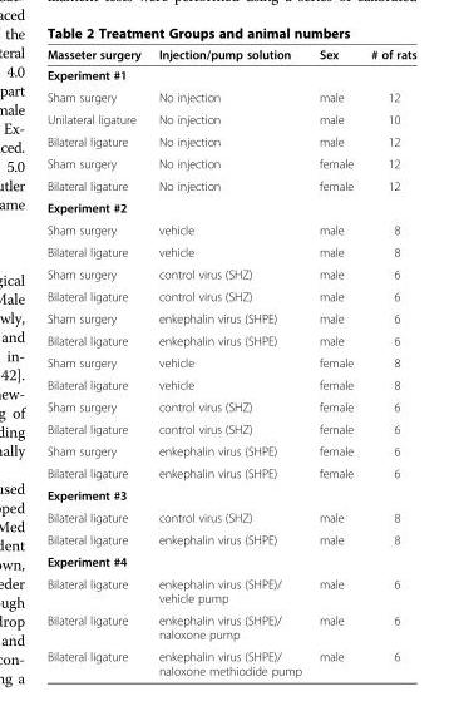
<table><thead><tr><td>Masseter surgery</td><td>Injection/pump solution</td><td>Sex</td><td># of rats</td></tr></thead><tbody><tr><td colspan="4">Experiment #1</td></tr><tr><td>Sham surgery</td><td>No injection</td><td>male</td><td>12</td></tr><tr><td>Unilateral ligature</td><td>No injection</td><td>male</td><td>10</td></tr><tr><td>Bilateral ligature</td><td>No injection</td><td>male</td><td>12</td></tr><tr><td>Sham surgery</td><td>No injection</td><td>female</td><td>12</td></tr><tr><td>Bilateral ligature</td><td>No injection</td><td>female</td><td>12</td></tr><tr><td colspan="4">Experiment #2</td></tr><tr><td>Sham surgery</td><td>vehicle</td><td>male</td><td>8</td></tr><tr><td>Bilateral ligature</td><td>vehicle</td><td>male</td><td>8</td></tr><tr><td>Sham surgery</td><td>control virus (SHZ)</td><td>male</td><td>6</td></tr><tr><td>Bilateral ligature</td><td>control virus (SHZ)</td><td>male</td><td>6</td></tr><tr><td>Sham surgery</td><td>enkephalin virus (SHPE)</td><td>male</td><td>6</td></tr><tr><td>Bilateral ligature</td><td>enkephalin virus (SHPE)</td><td>male</td><td>6</td></tr><tr><td>Sham surgery</td><td>vehicle</td><td>female</td><td>8</td></tr><tr><td>Bilateral ligature</td><td>vehicle</td><td>female</td><td>8</td></tr><tr><td>Sham surgery</td><td>control virus (SHZ)</td><td>female</td><td>6</td></tr><tr><td>Bilateral ligature</td><td>control virus (SHZ)</td><td>female</td><td>6</td></tr><tr><td>Sham surgery</td><td>enkephalin virus (SHPE)</td><td>female</td><td>6</td></tr><tr><td>Bilateral ligature</td><td>enkephalin virus (SHPE)</td><td>female</td><td>6</td></tr><tr><td colspan="4">Experiment #3</td></tr><tr><td>Bilateral ligature</td><td>control virus (SHZ)</td><td>male</td><td>8</td></tr><tr><td>Bilateral ligature</td><td>enkephalin virus (SHPE)</td><td>male</td><td>8</td></tr><tr><td colspan="4">Experiment #4</td></tr><tr><td>Bilateral ligature</td><td>enkephalin virus (SHPE)/ vehicle pump</td><td>male</td><td>6</td></tr><tr><td>Bilateral ligature</td><td>enkephalin virus (SHPE)/ naloxone pump</td><td>male</td><td>6</td></tr><tr><td>Bilateral ligature</td><td>enkephalin virus (SHPE)/ naloxone methiodide pump</td><td>male</td><td>6</td></tr></tbody></table>